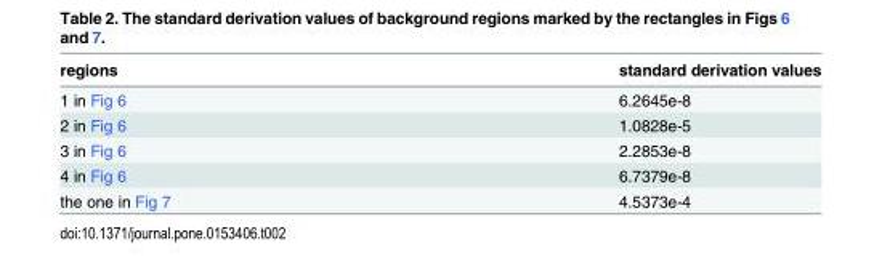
<table><thead><tr><td>regions</td><td>standard derivation values</td></tr></thead><tbody><tr><td>1 in Fig 6</td><td>6.2645e-8</td></tr><tr><td>2 in Fig 6</td><td>1.0828e-5</td></tr><tr><td>3 in Fig 6</td><td>2.2853e-8</td></tr><tr><td>4 in Fig 6</td><td>6.7379e-8</td></tr><tr><td>the one in Fig 7</td><td>4.5373e-4</td></tr></tbody></table>